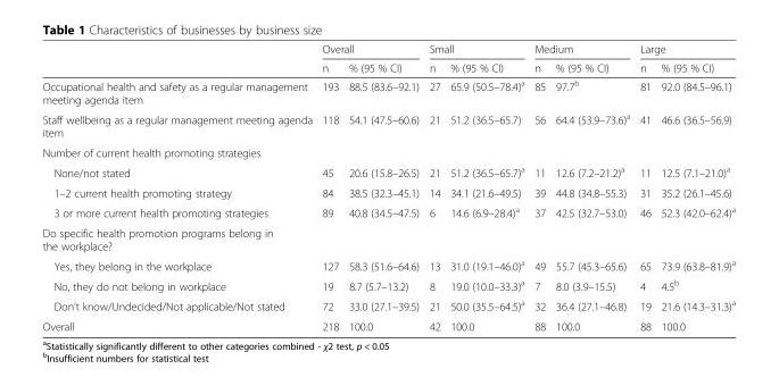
<table><thead><tr><td rowspan="2"></td><td colspan="2">Overall</td><td colspan="2">Small</td><td colspan="2">Medium</td><td colspan="2">Large</td></tr><tr><td>n</td><td>% (95 % CI)</td><td>n</td><td>% (95 % CI)</td><td>n</td><td>% (95 % CI)</td><td>n</td><td>% (95 % CI)</td></tr></thead><tbody><tr><td>Occupational health and safety as a regular management meeting agenda item</td><td>193</td><td>88.5 (83.6–92.1)</td><td>27</td><td>65.9 (50.5–78.4)<sup>a</sup></td><td>85</td><td>97.7<sup>b</sup></td><td>81</td><td>92.0 (84.5–96.1)</td></tr><tr><td>Staff wellbeing as a regular management meeting agenda item</td><td>118</td><td>54.1 (47.5–60.6)</td><td>21</td><td>51.2 (36.5–65.7)</td><td>56</td><td>64.4 (53.9–73.6)<sup>a</sup></td><td>41</td><td>46.6 (36.5–56.9)</td></tr><tr><td colspan="9">Number of current health promoting strategies</td></tr><tr><td>None/not stated</td><td>45</td><td>20.6 (15.8–26.5)</td><td>21</td><td>51.2 (36.5–65.7)<sup>a</sup></td><td>11</td><td>12.6 (7.2–21.2)<sup>a</sup></td><td>11</td><td>12.5 (7.1–21.0)<sup>a</sup></td></tr><tr><td>1–2 current health promoting strategy</td><td>84</td><td>38.5 (32.3–45.1)</td><td>14</td><td>34.1 (21.6–49.5)</td><td>39</td><td>44.8 (34.8–55.3)</td><td>31</td><td>35.2 (26.1–45.6)</td></tr><tr><td>3 or more current health promoting strategies</td><td>89</td><td>40.8 (34.5–47.5)</td><td>6</td><td>14.6 (6.9–28.4)<sup>a</sup></td><td>37</td><td>42.5 (32.7–53.0)</td><td>46</td><td>52.3 (42.0–62.4)<sup>a</sup></td></tr><tr><td colspan="9">Do specific health promotion programs belong in the workplace?</td></tr><tr><td>Yes, they belong in the workplace</td><td>127</td><td>58.3 (51.6–64.6)</td><td>13</td><td>31.0 (19.1–46.0)<sup>a</sup></td><td>49</td><td>55.7 (45.3–65.6)</td><td>65</td><td>73.9 (63.8–81.9)<sup>a</sup></td></tr><tr><td>No, they do not belong in workplace</td><td>19</td><td>8.7 (5.7–13.2)</td><td>8</td><td>19.0 (10.0–33.3)<sup>a</sup></td><td>7</td><td>8.0 (3.9–15.5)</td><td>4</td><td>4.5<sup>b</sup></td></tr><tr><td>Don’t know/Undecided/Not applicable/Not stated</td><td>72</td><td>33.0 (27.1–39.5)</td><td>21</td><td>50.0 (35.5–64.5)<sup>a</sup></td><td>32</td><td>36.4 (27.1–46.8)</td><td>19</td><td>21.6 (14.3–31.3)<sup>a</sup></td></tr><tr><td>Overall</td><td>218</td><td>100.0</td><td>42</td><td>100.0</td><td>88</td><td>100.0</td><td>88</td><td>100.0</td></tr></tbody></table>